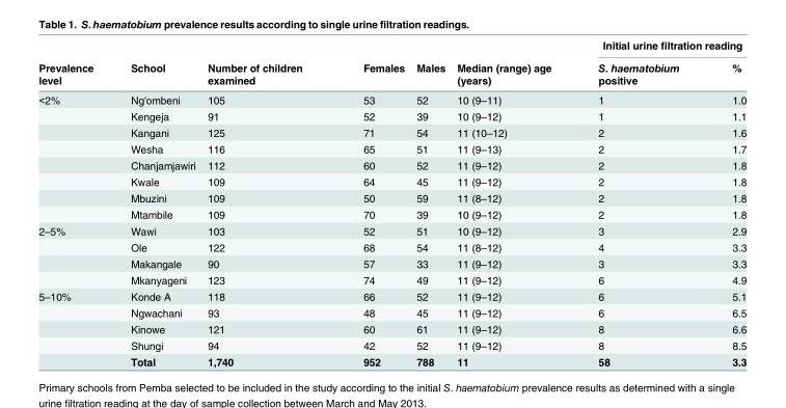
<table><thead><tr><td rowspan="2">Prevalence level</td><td rowspan="2">School</td><td rowspan="2">Number of children examined</td><td rowspan="2">Females</td><td rowspan="2">Males</td><td rowspan="2">Median (range) age (years)</td><td colspan="2">Initial urine filtration reading</td></tr><tr><td>S. haematobium positive</td><td>%</td></tr></thead><tbody><tr><td rowspan="8">&lt;2%</td><td>Ng&#x27;ombeni</td><td>105</td><td>53</td><td>52</td><td>10 (9–11)</td><td>1</td><td>1.0</td></tr><tr><td>Kengeja</td><td>91</td><td>52</td><td>39</td><td>10 (9–12)</td><td>1</td><td>1.1</td></tr><tr><td>Kangani</td><td>125</td><td>71</td><td>54</td><td>11 (10–12)</td><td>2</td><td>1.6</td></tr><tr><td>Wesha</td><td>116</td><td>65</td><td>51</td><td>11 (9–13)</td><td>2</td><td>1.7</td></tr><tr><td>Chanjamjawiri</td><td>112</td><td>60</td><td>52</td><td>11 (9–12)</td><td>2</td><td>1.8</td></tr><tr><td>Kwale</td><td>109</td><td>64</td><td>45</td><td>11 (9–12)</td><td>2</td><td>1.8</td></tr><tr><td>Mbuzini</td><td>109</td><td>50</td><td>59</td><td>11 (8–12)</td><td>2</td><td>1.8</td></tr><tr><td>Mtambile</td><td>109</td><td>70</td><td>39</td><td>10 (9–12)</td><td>2</td><td>1.8</td></tr><tr><td rowspan="4">2–5%</td><td>Wawi</td><td>103</td><td>52</td><td>51</td><td>10 (9–12)</td><td>3</td><td>2.9</td></tr><tr><td>Ole</td><td>122</td><td>68</td><td>54</td><td>11 (8–12)</td><td>4</td><td>3.3</td></tr><tr><td>Makangale</td><td>90</td><td>57</td><td>33</td><td>11 (9–12)</td><td>3</td><td>3.3</td></tr><tr><td>Mkanyageni</td><td>123</td><td>74</td><td>49</td><td>11 (9–12)</td><td>6</td><td>4.9</td></tr><tr><td rowspan="5">5–10%</td><td>Konde A</td><td>118</td><td>66</td><td>52</td><td>11 (9–12)</td><td>6</td><td>5.1</td></tr><tr><td>Ngwachani</td><td>93</td><td>48</td><td>45</td><td>11 (9–12)</td><td>6</td><td>6.5</td></tr><tr><td>Kinowe</td><td>121</td><td>60</td><td>61</td><td>11 (9–12)</td><td>8</td><td>6.6</td></tr><tr><td>Shungi</td><td>94</td><td>42</td><td>52</td><td>11 (9–12)</td><td>8</td><td>8.5</td></tr><tr><td>Total</td><td>1,740</td><td>952</td><td>788</td><td>11</td><td>58</td><td>3.3</td></tr></tbody></table>